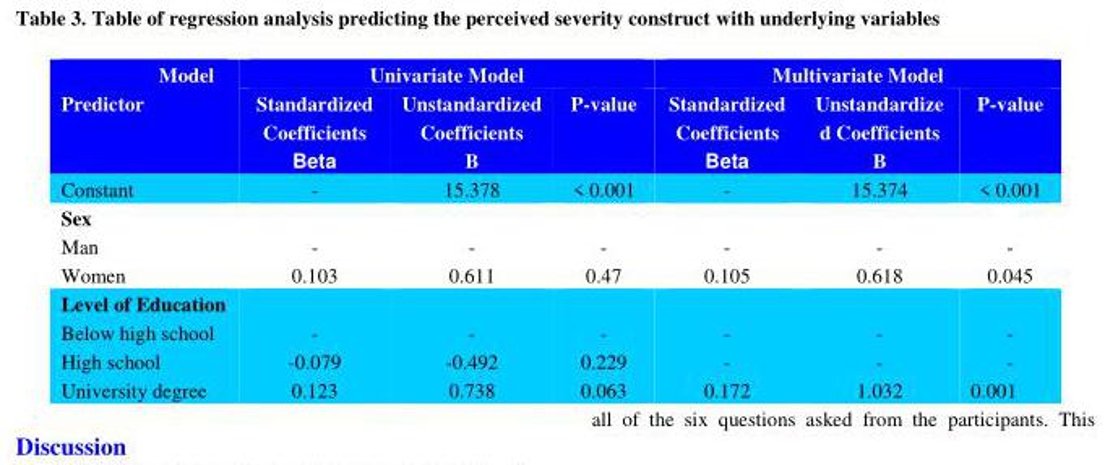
<table><thead><tr><td rowspan="2">Model Predictor</td><td colspan="3">Univariate Model</td><td colspan="3">Multivariate Model</td></tr><tr><td>Standardized Coefficients Beta</td><td>Unstandardized Coefficients B</td><td>P-value</td><td>Standardized Coefficients Beta</td><td>Unstandardize d Coefficients B</td><td>P-value</td></tr></thead><tbody><tr><td>Constant</td><td>-</td><td>15.378</td><td>&lt; 0.001</td><td>-</td><td>15.374</td><td>&lt; 0.001</td></tr><tr><td>Sex Man Women</td><td>- 0.103</td><td>- 0.611</td><td>- 0.47</td><td>- 0.105</td><td>- 0.618</td><td>- 0.045</td></tr><tr><td>Level of Education Below high school High school University degree</td><td>- -0.079 0.123</td><td>- -0.492 0.738</td><td>- 0.229 0.063</td><td>- - 0.172</td><td>- - 1.032</td><td>- - 0.001</td></tr></tbody></table>